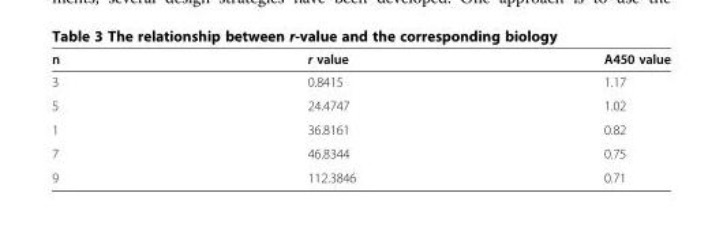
<table><thead><tr><td>n</td><td>r value</td><td>A450 value</td></tr></thead><tbody><tr><td>3</td><td>0.8415</td><td>1.17</td></tr><tr><td>5</td><td>24.4747</td><td>1.02</td></tr><tr><td>1</td><td>36.8161</td><td>0.82</td></tr><tr><td>7</td><td>46.8344</td><td>0.75</td></tr><tr><td>9</td><td>112.3846</td><td>0.71</td></tr></tbody></table>